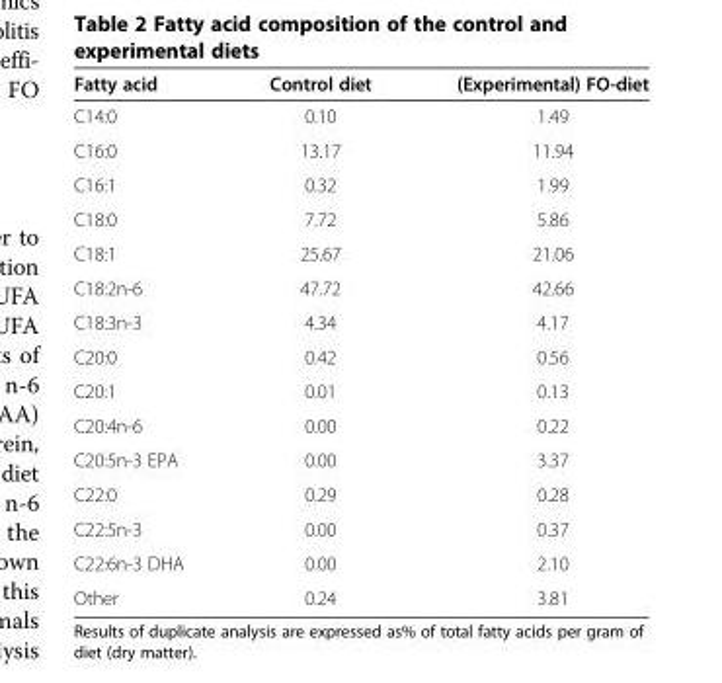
<table><thead><tr><td>Fatty acid</td><td>Control diet</td><td>(Experimental) FO-diet</td></tr></thead><tbody><tr><td>C14:0</td><td>0.10</td><td>1.49</td></tr><tr><td>C16:0</td><td>13.17</td><td>11.94</td></tr><tr><td>C16:1</td><td>0.32</td><td>1.99</td></tr><tr><td>C18:0</td><td>7.72</td><td>5.86</td></tr><tr><td>C18:1</td><td>25.67</td><td>21.06</td></tr><tr><td>C18:2n-6</td><td>47.72</td><td>42.66</td></tr><tr><td>C18:3n-3</td><td>4.34</td><td>4.17</td></tr><tr><td>C20:0</td><td>0.42</td><td>0.56</td></tr><tr><td>C20:1</td><td>0.01</td><td>0.13</td></tr><tr><td>C20:4n-6</td><td>0.00</td><td>0.22</td></tr><tr><td>C20:5n-3 EPA</td><td>0.00</td><td>3.37</td></tr><tr><td>C22:0</td><td>0.29</td><td>0.28</td></tr><tr><td>C22:5n-3</td><td>0.00</td><td>0.37</td></tr><tr><td>C22:6n-3 DHA</td><td>0.00</td><td>2.10</td></tr><tr><td>Other</td><td>0.24</td><td>3.81</td></tr></tbody></table>